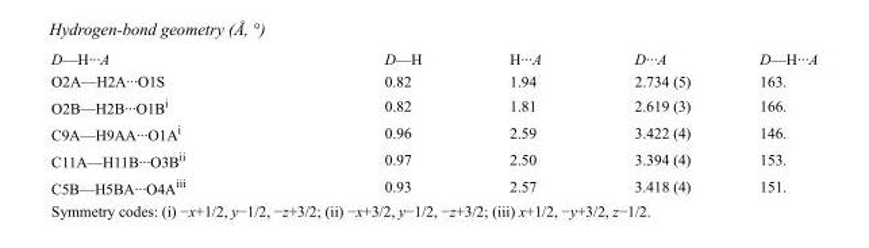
<table><tbody><tr><td>D—H···A</td><td>D—H</td><td>H···A</td><td>D···A</td><td>D—H···A</td></tr><tr><td>O2A—H2A···O1S</td><td>0.82</td><td>1.94</td><td>2.734 (5)</td><td>163.</td></tr><tr><td>O2B—H2B···O1B<sup>i</sup></td><td>0.82</td><td>1.81</td><td>2.619 (3)</td><td>166.</td></tr><tr><td>C9A—H9AA···O1A<sup>i</sup></td><td>0.96</td><td>2.59</td><td>3.422 (4)</td><td>146.</td></tr><tr><td>C11A—H11B···O3B<sup>ii</sup></td><td>0.97</td><td>2.50</td><td>3.394 (4)</td><td>153.</td></tr><tr><td>C5B—H5BA···O4A<sup>iii</sup></td><td>0.93</td><td>2.57</td><td>3.418 (4)</td><td>151.</td></tr></tbody></table>